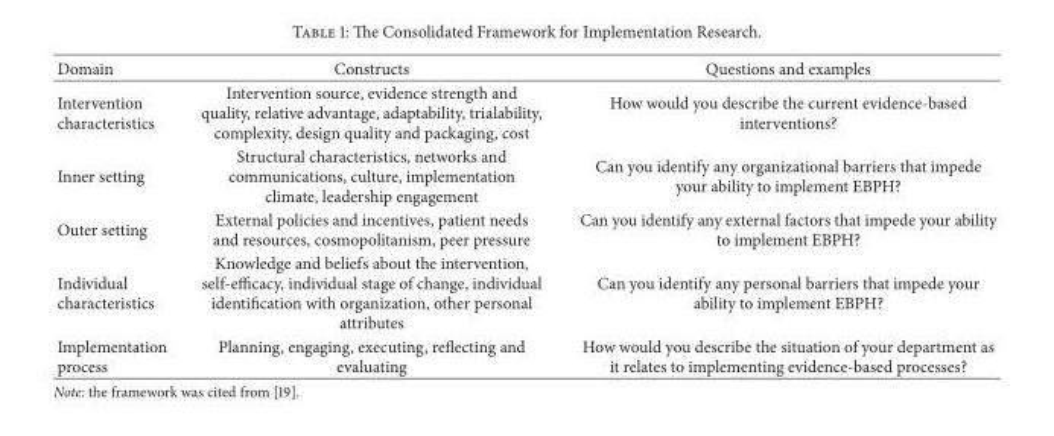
<table><thead><tr><td>Domain</td><td>Constructs</td><td>Questions and examples</td></tr></thead><tbody><tr><td>Intervention characteristics</td><td>Intervention source, evidence strength and quality, relative advantage, adaptability, trialability, complexity, design quality and packaging, cost</td><td>How would you describe the current evidence-based interventions?</td></tr><tr><td>Inner setting</td><td>Structural characteristics, networks and communications, culture, implementation climate, leadership engagement</td><td>Can you identify any organizational barriers that impede your ability to implement EBPH?</td></tr><tr><td>Outer setting</td><td>External policies and incentives, patient needs and resources, cosmopolitanism, peer pressure</td><td>Can you identify any external factors that impede your ability to implement EBPH?</td></tr><tr><td>Individual characteristics</td><td>Knowledge and beliefs about the intervention, self-efficacy, individual stage of change, individual identification with organization, other personal attributes</td><td>Can you identify any personal barriers that impede your ability to implement EBPH?</td></tr><tr><td>Implementation process</td><td>Planning, engaging, executing, reflecting and evaluating</td><td>How would you describe the situation of your department as it relates to implementing evidence-based processes?</td></tr></tbody></table>